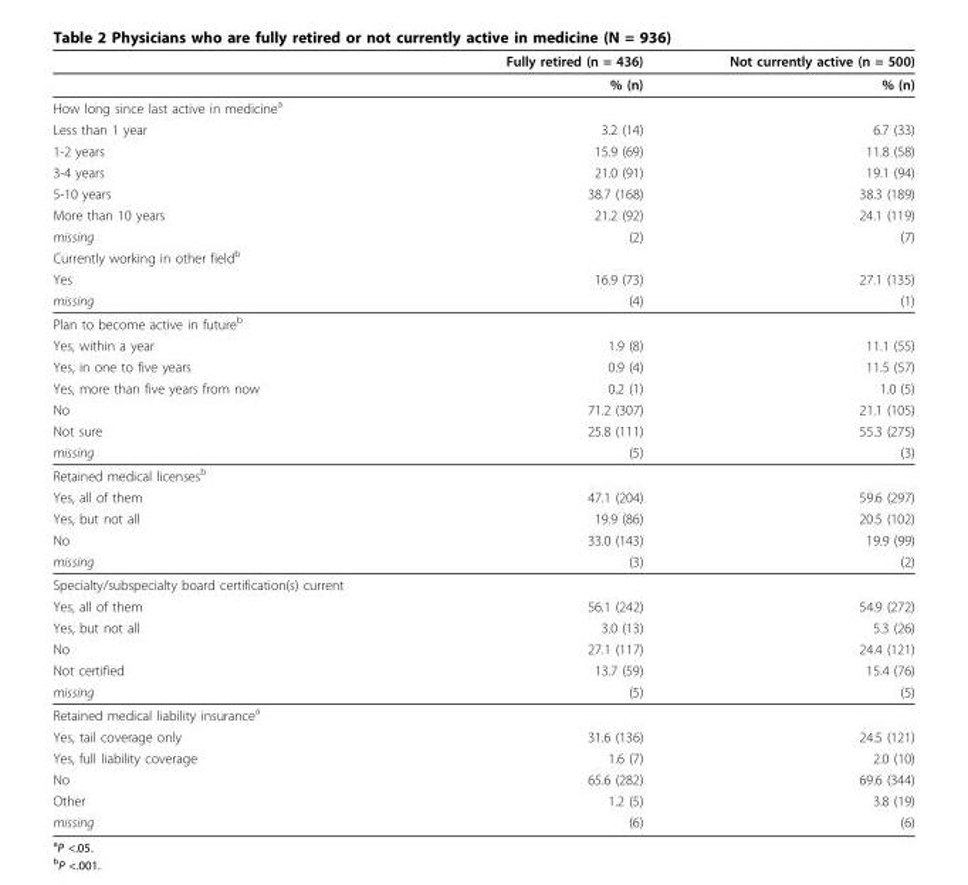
<table><thead><tr><td></td><td>Fully retired (n = 436)</td><td>Not currently active (n = 500)</td></tr></thead><tbody><tr><td></td><td>% (n)</td><td>% (n)</td></tr><tr><td colspan="3">How long since last active in medicine<sup>a</sup></td></tr><tr><td>Less than 1 year</td><td>3.2 (14)</td><td>6.7 (33)</td></tr><tr><td>1-2 years</td><td>15.9 (69)</td><td>11.8 (58)</td></tr><tr><td>3-4 years</td><td>21.0 (91)</td><td>19.1 (94)</td></tr><tr><td>5-10 years</td><td>38.7 (168)</td><td>38.3 (189)</td></tr><tr><td>More than 10 years</td><td>21.2 (92)</td><td>24.1 (119)</td></tr><tr><td>missing</td><td>(2)</td><td>(7)</td></tr><tr><td colspan="3">Currently working in other field<sup>b</sup></td></tr><tr><td>Yes</td><td>16.9 (73)</td><td>27.1 (135)</td></tr><tr><td>missing</td><td>(4)</td><td>(1)</td></tr><tr><td colspan="3">Plan to become active in future<sup>b</sup></td></tr><tr><td>Yes, within a year</td><td>1.9 (8)</td><td>11.1 (55)</td></tr><tr><td>Yes, in one to five years</td><td>0.9 (4)</td><td>11.5 (57)</td></tr><tr><td>Yes, more than five years from now</td><td>0.2 (1)</td><td>1.0 (5)</td></tr><tr><td>No</td><td>71.2 (307)</td><td>21.1 (105)</td></tr><tr><td>Not sure</td><td>25.8 (111)</td><td>55.3 (275)</td></tr><tr><td>missing</td><td>(5)</td><td>(3)</td></tr><tr><td colspan="3">Retained medical licenses<sup>b</sup></td></tr><tr><td>Yes, all of them</td><td>47.1 (204)</td><td>59.6 (297)</td></tr><tr><td>Yes, but not all</td><td>19.9 (86)</td><td>20.5 (102)</td></tr><tr><td>No</td><td>33.0 (143)</td><td>19.9 (99)</td></tr><tr><td>missing</td><td>(3)</td><td>(2)</td></tr><tr><td colspan="3">Specialty/subspecialty board certification(s) current</td></tr><tr><td>Yes, all of them</td><td>56.1 (242)</td><td>54.9 (272)</td></tr><tr><td>Yes, but not all</td><td>3.0 (13)</td><td>5.3 (26)</td></tr><tr><td>No</td><td>27.1 (117)</td><td>24.4 (121)</td></tr><tr><td>Not certified</td><td>13.7 (59)</td><td>15.4 (76)</td></tr><tr><td>missing</td><td>(5)</td><td>(5)</td></tr><tr><td colspan="3">Retained medical liability insurance<sup>a</sup></td></tr><tr><td>Yes, tail coverage only</td><td>31.6 (136)</td><td>24.5 (121)</td></tr><tr><td>Yes, full liability coverage</td><td>1.6 (7)</td><td>2.0 (10)</td></tr><tr><td>No</td><td>65.6 (282)</td><td>69.6 (344)</td></tr><tr><td>Other</td><td>1.2 (5)</td><td>3.8 (19)</td></tr><tr><td>missing</td><td>(6)</td><td>(6)</td></tr></tbody></table>